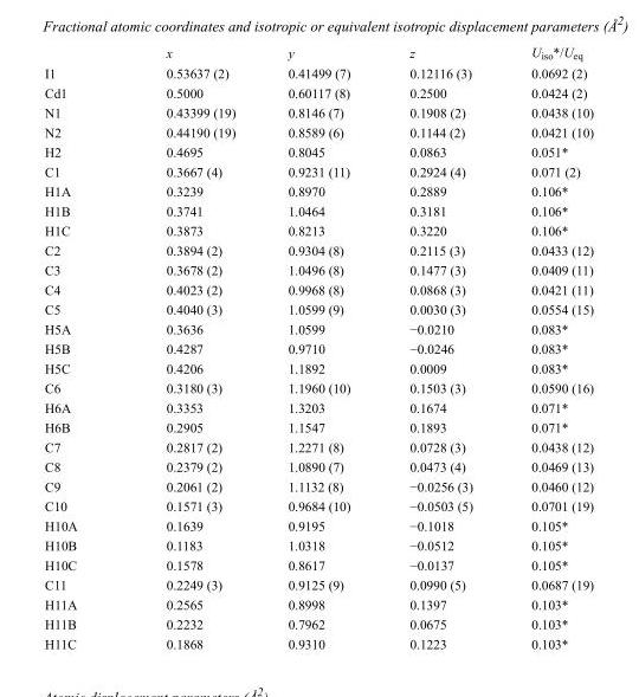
<table><thead><tr><td></td><td>x</td><td>y</td><td>z</td><td>U<sub>iso</sub>*/U<sub>eq</sub></td></tr></thead><tbody><tr><td>I1</td><td>0.53637 (2)</td><td>0.41499 (7)</td><td>0.12116 (3)</td><td>0.0692 (2)</td></tr><tr><td>Cd1</td><td>0.5000</td><td>0.60117 (8)</td><td>0.2500</td><td>0.0424 (2)</td></tr><tr><td>N1</td><td>0.43399 (19)</td><td>0.8146 (7)</td><td>0.1908 (2)</td><td>0.0438 (10)</td></tr><tr><td>N2</td><td>0.44190 (19)</td><td>0.8589 (6)</td><td>0.1144 (2)</td><td>0.0421 (10)</td></tr><tr><td>H2</td><td>0.4695</td><td>0.8045</td><td>0.0863</td><td>0.051*</td></tr><tr><td>C1</td><td>0.3667 (4)</td><td>0.9231 (11)</td><td>0.2924 (4)</td><td>0.071 (2)</td></tr><tr><td>H1A</td><td>0.3239</td><td>0.8970</td><td>0.2889</td><td>0.106*</td></tr><tr><td>H1B</td><td>0.3741</td><td>1.0464</td><td>0.3181</td><td>0.106*</td></tr><tr><td>H1C</td><td>0.3873</td><td>0.8213</td><td>0.3220</td><td>0.106*</td></tr><tr><td>C2</td><td>0.3894 (2)</td><td>0.9304 (8)</td><td>0.2115 (3)</td><td>0.0433 (12)</td></tr><tr><td>C3</td><td>0.3678 (2)</td><td>1.0496 (8)</td><td>0.1477 (3)</td><td>0.0409 (11)</td></tr><tr><td>C4</td><td>0.4023 (2)</td><td>0.9968 (8)</td><td>0.0868 (3)</td><td>0.0421 (11)</td></tr><tr><td>C5</td><td>0.4040 (3)</td><td>1.0599 (9)</td><td>0.0030 (3)</td><td>0.0554 (15)</td></tr><tr><td>H5A</td><td>0.3636</td><td>1.0599</td><td>−0.0210</td><td>0.083*</td></tr><tr><td>H5B</td><td>0.4287</td><td>0.9710</td><td>−0.0246</td><td>0.083*</td></tr><tr><td>H5C</td><td>0.4206</td><td>1.1892</td><td>0.0009</td><td>0.083*</td></tr><tr><td>C6</td><td>0.3180 (3)</td><td>1.1960 (10)</td><td>0.1503 (3)</td><td>0.0590 (16)</td></tr><tr><td>H6A</td><td>0.3353</td><td>1.3203</td><td>0.1674</td><td>0.071*</td></tr><tr><td>H6B</td><td>0.2905</td><td>1.1547</td><td>0.1893</td><td>0.071*</td></tr><tr><td>C7</td><td>0.2817 (2)</td><td>1.2271 (8)</td><td>0.0728 (3)</td><td>0.0438 (12)</td></tr><tr><td>C8</td><td>0.2379 (2)</td><td>1.0890 (7)</td><td>0.0473 (4)</td><td>0.0469 (13)</td></tr><tr><td>C9</td><td>0.2061 (2)</td><td>1.1132 (8)</td><td>−0.0256 (3)</td><td>0.0460 (12)</td></tr><tr><td>C10</td><td>0.1571 (3)</td><td>0.9684 (10)</td><td>−0.0503 (5)</td><td>0.0701 (19)</td></tr><tr><td>H10A</td><td>0.1639</td><td>0.9195</td><td>−0.1018</td><td>0.105*</td></tr><tr><td>H10B</td><td>0.1183</td><td>1.0318</td><td>−0.0512</td><td>0.105*</td></tr><tr><td>H10C</td><td>0.1578</td><td>0.8617</td><td>−0.0137</td><td>0.105*</td></tr><tr><td>C11</td><td>0.2249 (3)</td><td>0.9125 (9)</td><td>0.0990 (5)</td><td>0.0687 (19)</td></tr><tr><td>H11A</td><td>0.2565</td><td>0.8998</td><td>0.1397</td><td>0.103*</td></tr><tr><td>H11B</td><td>0.2232</td><td>0.7962</td><td>0.0675</td><td>0.103*</td></tr><tr><td>H11C</td><td>0.1868</td><td>0.9310</td><td>0.1223</td><td>0.103*</td></tr></tbody></table>